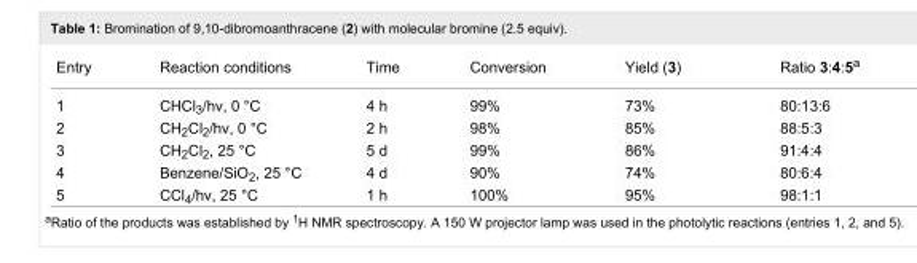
<table><tbody><tr><td>Entry</td><td>Reaction conditions</td><td>Time</td><td>Conversion</td><td>Yield (3)</td><td>Ratio 3:4:5<sup>a</sup></td></tr><tr><td>1</td><td>CHCl<sub>3</sub>/hν, 0 °C</td><td>4 h</td><td>99%</td><td>73%</td><td>80:13:6</td></tr><tr><td>2</td><td>CH<sub>2</sub>Cl<sub>2</sub>/hν, 0 °C</td><td>2 h</td><td>98%</td><td>85%</td><td>88:5:3</td></tr><tr><td>3</td><td>CH<sub>2</sub>Cl<sub>2</sub>, 25 °C</td><td>5 d</td><td>99%</td><td>86%</td><td>91:4:4</td></tr><tr><td>4</td><td>Benzene/SiO<sub>2</sub>, 25 °C</td><td>4 d</td><td>90%</td><td>74%</td><td>80:6:4</td></tr><tr><td>5</td><td>CCl<sub>4</sub>/hν, 25 °C</td><td>1 h</td><td>100%</td><td>95%</td><td>98:1:1</td></tr></tbody></table>